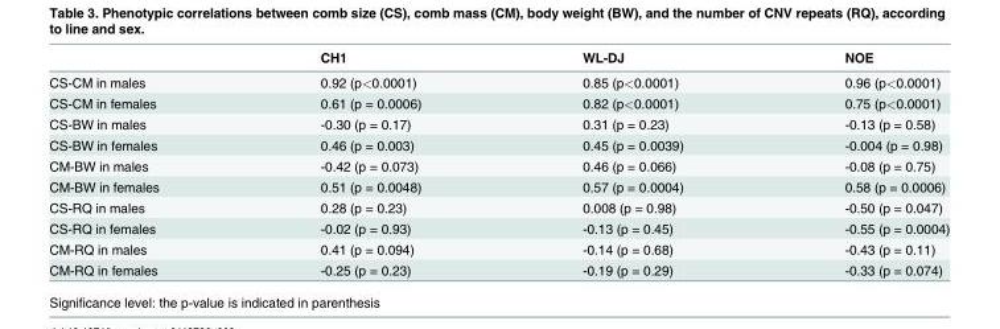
<table><thead><tr><td></td><td>CH1</td><td>WL-DJ</td><td>NOE</td></tr></thead><tbody><tr><td>CS-CM in males</td><td>0.92 (p&lt;0.0001)</td><td>0.85 (p&lt;0.0001)</td><td>0.96 (p&lt;0.0001)</td></tr><tr><td>CS-CM in females</td><td>0.61 (p = 0.0006)</td><td>0.82 (p&lt;0.0001)</td><td>0.75 (p&lt;0.0001)</td></tr><tr><td>CS-BW in males</td><td>-0.30 (p = 0.17)</td><td>0.31 (p = 0.23)</td><td>-0.13 (p = 0.58)</td></tr><tr><td>CS-BW in females</td><td>0.46 (p = 0.003)</td><td>0.45 (p = 0.0039)</td><td>-0.004 (p = 0.98)</td></tr><tr><td>CM-BW in males</td><td>-0.42 (p = 0.073)</td><td>0.46 (p = 0.066)</td><td>-0.08 (p = 0.75)</td></tr><tr><td>CM-BW in females</td><td>0.51 (p = 0.0048)</td><td>0.57 (p = 0.0004)</td><td>0.58 (p = 0.0006)</td></tr><tr><td>CS-RQ in males</td><td>0.28 (p = 0.23)</td><td>0.008 (p = 0.98)</td><td>-0.50 (p = 0.047)</td></tr><tr><td>CS-RQ in females</td><td>-0.02 (p = 0.93)</td><td>-0.13 (p = 0.45)</td><td>-0.55 (p = 0.0004)</td></tr><tr><td>CM-RQ in males</td><td>0.41 (p = 0.094)</td><td>-0.14 (p = 0.68)</td><td>-0.43 (p = 0.11)</td></tr><tr><td>CM-RQ in females</td><td>-0.25 (p = 0.23)</td><td>-0.19 (p = 0.29)</td><td>-0.33 (p = 0.074)</td></tr></tbody></table>